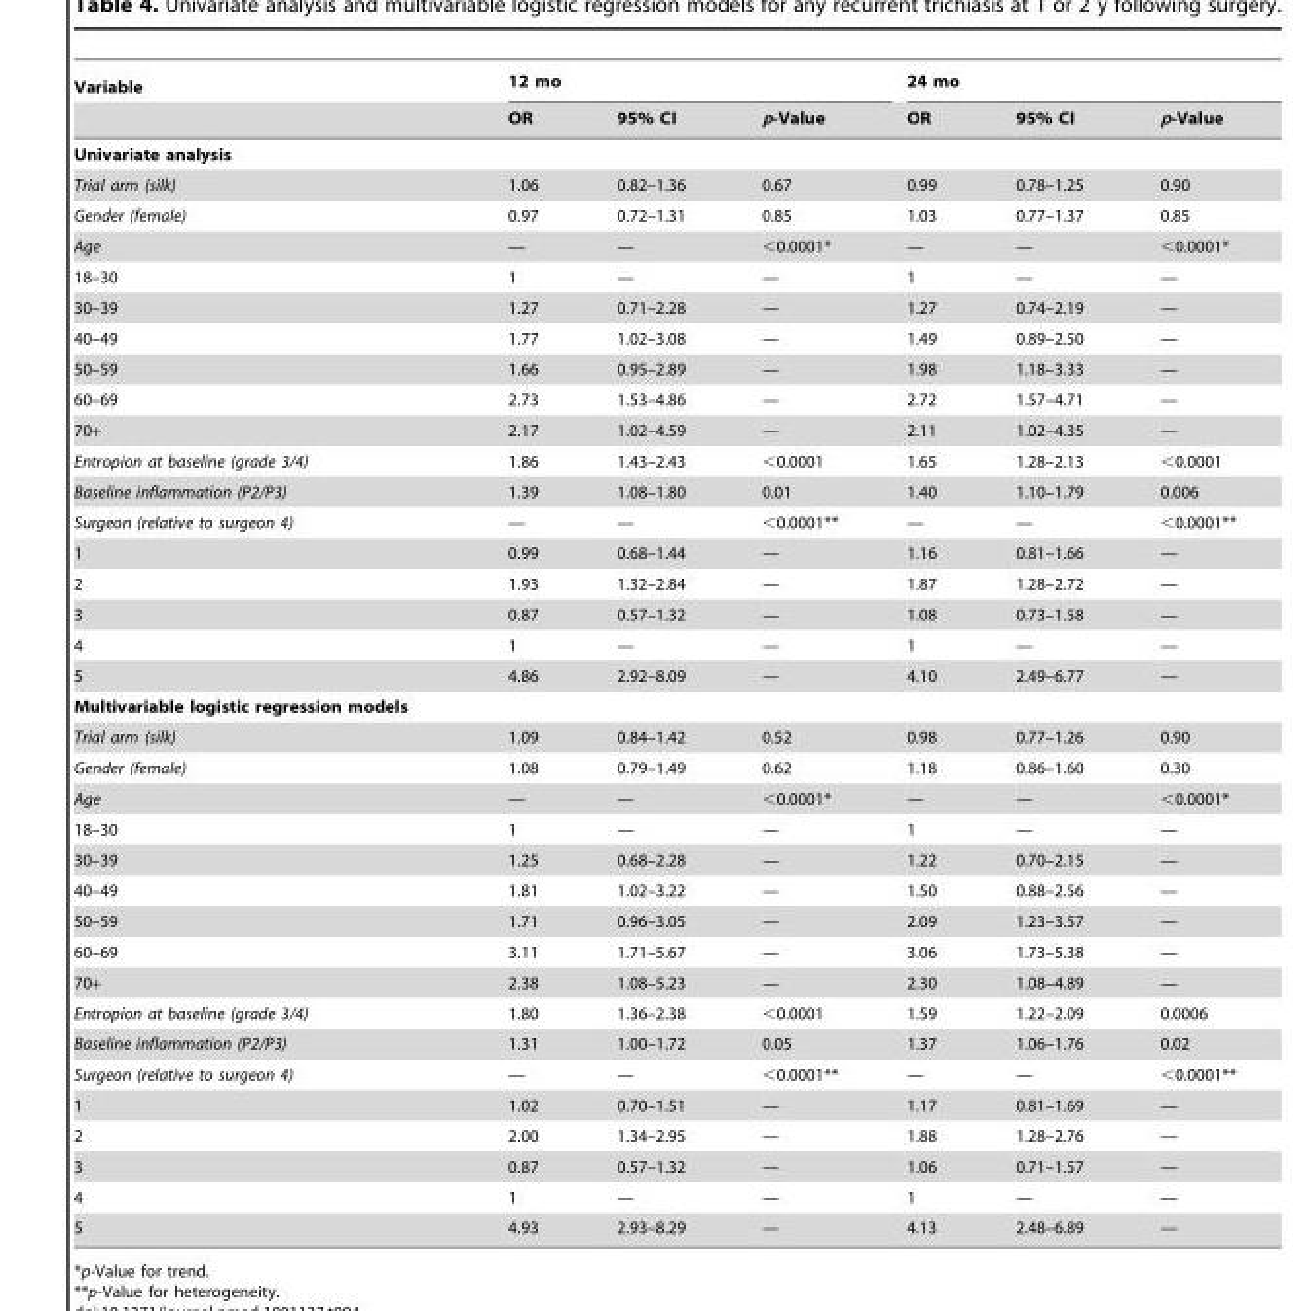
<table><thead><tr><td rowspan="2">Variable</td><td colspan="3">12 mo</td><td colspan="3">24 mo</td></tr><tr><td>OR</td><td>95% CI</td><td>p-Value</td><td>OR</td><td>95% CI</td><td>p-Value</td></tr></thead><tbody><tr><td colspan="7">Univariate analysis</td></tr><tr><td>Trial arm (silk)</td><td>1.06</td><td>0.82–1.36</td><td>0.67</td><td>0.99</td><td>0.78–1.25</td><td>0.90</td></tr><tr><td>Gender (female)</td><td>0.97</td><td>0.72–1.31</td><td>0.85</td><td>1.03</td><td>0.77–1.37</td><td>0.85</td></tr><tr><td>Age</td><td>—</td><td>—</td><td>&lt;0.0001*</td><td>—</td><td>—</td><td>&lt;0.0001*</td></tr><tr><td>18–30</td><td>1</td><td>—</td><td>—</td><td>1</td><td>—</td><td>—</td></tr><tr><td>30–39</td><td>1.27</td><td>0.71–2.28</td><td>—</td><td>1.27</td><td>0.74–2.19</td><td>—</td></tr><tr><td>40–49</td><td>1.77</td><td>1.02–3.08</td><td>—</td><td>1.49</td><td>0.89–2.50</td><td>—</td></tr><tr><td>50–59</td><td>1.66</td><td>0.95–2.89</td><td>—</td><td>1.98</td><td>1.18–3.33</td><td>—</td></tr><tr><td>60–69</td><td>2.73</td><td>1.53–4.86</td><td>—</td><td>2.72</td><td>1.57–4.71</td><td>—</td></tr><tr><td>70+</td><td>2.17</td><td>1.02–4.59</td><td>—</td><td>2.11</td><td>1.02–4.35</td><td>—</td></tr><tr><td>Entropion at baseline (grade 3/4)</td><td>1.86</td><td>1.43–2.43</td><td>&lt;0.0001</td><td>1.65</td><td>1.28–2.13</td><td>&lt;0.0001</td></tr><tr><td>Baseline inflammation (P2/P3)</td><td>1.39</td><td>1.08–1.80</td><td>0.01</td><td>1.40</td><td>1.10–1.79</td><td>0.006</td></tr><tr><td>Surgeon (relative to surgeon 4)</td><td>—</td><td>—</td><td>&lt;0.0001**</td><td>—</td><td>—</td><td>&lt;0.0001**</td></tr><tr><td>1</td><td>0.99</td><td>0.68–1.44</td><td>—</td><td>1.16</td><td>0.81–1.66</td><td>—</td></tr><tr><td>2</td><td>1.93</td><td>1.32–2.84</td><td>—</td><td>1.87</td><td>1.28–2.72</td><td>—</td></tr><tr><td>3</td><td>0.87</td><td>0.57–1.32</td><td>—</td><td>1.08</td><td>0.73–1.58</td><td>—</td></tr><tr><td>4</td><td>1</td><td>—</td><td>—</td><td>1</td><td>—</td><td>—</td></tr><tr><td>5</td><td>4.86</td><td>2.92–8.09</td><td>—</td><td>4.10</td><td>2.49–6.77</td><td>—</td></tr><tr><td colspan="7">Multivariable logistic regression models</td></tr><tr><td>Trial arm (silk)</td><td>1.09</td><td>0.84–1.42</td><td>0.52</td><td>0.98</td><td>0.77–1.26</td><td>0.90</td></tr><tr><td>Gender (female)</td><td>1.08</td><td>0.79–1.49</td><td>0.62</td><td>1.18</td><td>0.86–1.60</td><td>0.30</td></tr><tr><td>Age</td><td>—</td><td>—</td><td>&lt;0.0001*</td><td>—</td><td>—</td><td>&lt;0.0001*</td></tr><tr><td>18–30</td><td>1</td><td>—</td><td>—</td><td>1</td><td>—</td><td>—</td></tr><tr><td>30–39</td><td>1.25</td><td>0.68–2.28</td><td>—</td><td>1.22</td><td>0.70–2.15</td><td>—</td></tr><tr><td>40–49</td><td>1.81</td><td>1.02–3.22</td><td>—</td><td>1.50</td><td>0.88–2.56</td><td>—</td></tr><tr><td>50–59</td><td>1.71</td><td>0.96–3.05</td><td>—</td><td>2.09</td><td>1.23–3.57</td><td>—</td></tr><tr><td>60–69</td><td>3.11</td><td>1.71–5.67</td><td>—</td><td>3.06</td><td>1.73–5.38</td><td>—</td></tr><tr><td>70+</td><td>2.38</td><td>1.08–5.23</td><td>—</td><td>2.30</td><td>1.08–4.89</td><td>—</td></tr><tr><td>Entropion at baseline (grade 3/4)</td><td>1.80</td><td>1.36–2.38</td><td>&lt;0.0001</td><td>1.59</td><td>1.22–2.09</td><td>0.0006</td></tr><tr><td>Baseline inflammation (P2/P3)</td><td>1.31</td><td>1.00–1.72</td><td>0.05</td><td>1.37</td><td>1.06–1.76</td><td>0.02</td></tr><tr><td>Surgeon (relative to surgeon 4)</td><td>—</td><td>—</td><td>&lt;0.0001**</td><td>—</td><td>—</td><td>&lt;0.0001**</td></tr><tr><td>1</td><td>1.02</td><td>0.70–1.51</td><td>—</td><td>1.17</td><td>0.81–1.69</td><td>—</td></tr><tr><td>2</td><td>2.00</td><td>1.34–2.95</td><td>—</td><td>1.88</td><td>1.28–2.76</td><td>—</td></tr><tr><td>3</td><td>0.87</td><td>0.57–1.32</td><td>—</td><td>1.06</td><td>0.71–1.57</td><td>—</td></tr><tr><td>4</td><td>1</td><td>—</td><td>—</td><td>1</td><td>—</td><td>—</td></tr><tr><td>5</td><td>4.93</td><td>2.93–8.29</td><td>—</td><td>4.13</td><td>2.48–6.89</td><td>—</td></tr></tbody></table>